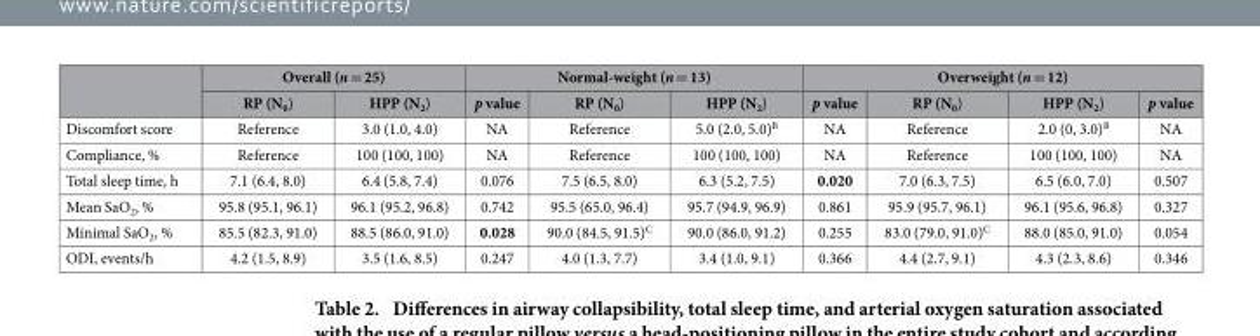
<table><thead><tr><td rowspan="2"></td><td colspan="2">Overall (n = 25)</td><td colspan="3">Normal-weight (n = 13)</td><td colspan="4">Overweight (n = 12)</td></tr><tr><td>RP (N<sub>0</sub>)</td><td>HPP (N<sub>2</sub>)</td><td>p value</td><td>RP (N<sub>0</sub>)</td><td>HPP (N<sub>2</sub>)</td><td>p value</td><td>RP (N<sub>0</sub>)</td><td>HPP (N<sub>2</sub>)</td><td>p value</td></tr></thead><tbody><tr><td>Discomfort score</td><td>Reference</td><td>3.0 (1.0, 4.0)</td><td>NA</td><td>Reference</td><td>5.0 (2.0, 5.0)<sup>B</sup></td><td>NA</td><td>Reference</td><td>2.0 (0, 3.0)<sup>B</sup></td><td>NA</td></tr><tr><td>Compliance, %</td><td>Reference</td><td>100 (100, 100)</td><td>NA</td><td>Reference</td><td>100 (100, 100)</td><td>NA</td><td>Reference</td><td>100 (100, 100)</td><td>NA</td></tr><tr><td>Total sleep time, h</td><td>7.1 (6.4, 8.0)</td><td>6.4 (5.8, 7.4)</td><td>0.076</td><td>7.5 (6.5, 8.0)</td><td>6.3 (5.2, 7.5)</td><td>0.020</td><td>7.0 (6.3, 7.5)</td><td>6.5 (6.0, 7.0)</td><td>0.507</td></tr><tr><td>Mean SaO<sub>2</sub>, %</td><td>95.8 (95.1, 96.1)</td><td>96.1 (95.2, 96.8)</td><td>0.742</td><td>95.5 (65.0, 96.4)</td><td>95.7 (94.9, 96.9)</td><td>0.861</td><td>95.9 (95.7, 96.1)</td><td>96.1 (95.6, 96.8)</td><td>0.327</td></tr><tr><td>Minimal SaO<sub>2</sub>, %</td><td>85.5 (82.3, 91.0)</td><td>88.5 (86.0, 91.0)</td><td>0.028</td><td>90.0 (84.5, 91.5)<sup>C</sup></td><td>90.0 (86.0, 91.2)</td><td>0.255</td><td>83.0 (79.0, 91.0)<sup>C</sup></td><td>88.0 (85.0, 91.0)</td><td>0.054</td></tr><tr><td>ODI, events/h</td><td>4.2 (1.5, 8.9)</td><td>3.5 (1.6, 8.5)</td><td>0.247</td><td>4.0 (1.3, 7.7)</td><td>3.4 (1.0, 9.1)</td><td>0.366</td><td>4.4 (2.7, 9.1)</td><td>4.3 (2.3, 8.6)</td><td>0.346</td></tr></tbody></table>